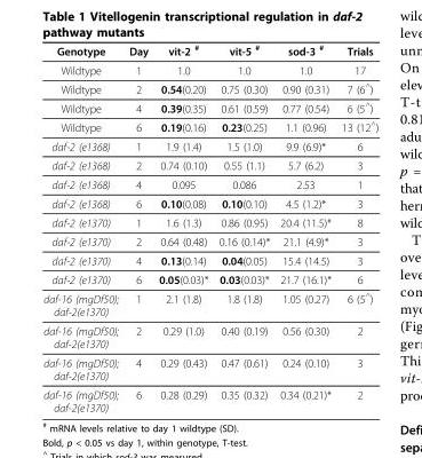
<table><thead><tr><td>Genotype</td><td>Day</td><td>vit-2 <sup>#</sup></td><td>vit-5 <sup>#</sup></td><td>sod-3 <sup>#</sup></td><td>Trials</td></tr></thead><tbody><tr><td>Wildtype</td><td>1</td><td>1.0</td><td>1.0</td><td>1.0</td><td>17</td></tr><tr><td>Wildtype</td><td>2</td><td>0.54(0.20)</td><td>0.75 (0.30)</td><td>0.90 (0.31)</td><td>7 (6<sup>^</sup>)</td></tr><tr><td>Wildtype</td><td>4</td><td>0.39(0.35)</td><td>0.61 (0.59)</td><td>0.77 (0.54)</td><td>6 (5<sup>^</sup>)</td></tr><tr><td>Wildtype</td><td>6</td><td>0.19(0.16)</td><td>0.23(0.25)</td><td>1.1 (0.96)</td><td>13 (12<sup>^</sup>)</td></tr><tr><td>daf-2 (e1368)</td><td>1</td><td>1.9 (1.4)</td><td>1.5 (1.0)</td><td>9.9 (6.9)*</td><td>6</td></tr><tr><td>daf-2 (e1368)</td><td>2</td><td>0.74 (0.10)</td><td>0.55 (1.1)</td><td>5.7 (6.2)</td><td>3</td></tr><tr><td>daf-2 (e1368)</td><td>4</td><td>0.095</td><td>0.086</td><td>2.53</td><td>1</td></tr><tr><td>daf-2 (e1368)</td><td>6</td><td>0.10(0.08)</td><td>0.10(0.10)</td><td>4.5 (1.2)*</td><td>3</td></tr><tr><td>daf-2 (e1370)</td><td>1</td><td>1.6 (1.3)</td><td>0.86 (0.95)</td><td>20.4 (11.5)*</td><td>8</td></tr><tr><td>daf-2 (e1370)</td><td>2</td><td>0.64 (0.48)</td><td>0.16 (0.14)*</td><td>21.1 (4.9)*</td><td>3</td></tr><tr><td>daf-2 (e1370)</td><td>4</td><td>0.13(0.14)</td><td>0.04(0.05)</td><td>15.4 (14.5)</td><td>3</td></tr><tr><td>daf-2 (e1370)</td><td>6</td><td>0.05(0.03)*</td><td>0.03(0.03)*</td><td>21.7 (16.1)*</td><td>6</td></tr><tr><td>daf-16 (mgDf50); daf-2(e1370)</td><td>1</td><td>2.1 (1.8)</td><td>1.8 (1.8)</td><td>1.05 (0.27)</td><td>6 (5<sup>^</sup>)</td></tr><tr><td>daf-16 (mgDf50); daf-2(e1370)</td><td>2</td><td>0.29 (1.0)</td><td>0.40 (0.19)</td><td>0.56 (0.30)</td><td>2</td></tr><tr><td>daf-16 (mgDf50); daf-2(e1370)</td><td>4</td><td>0.29 (0.43)</td><td>0.47 (0.61)</td><td>0.24 (0.10)</td><td>3</td></tr><tr><td>daf-16 (mgDf50); daf-2(e1370)</td><td>6</td><td>0.28 (0.29)</td><td>0.35 (0.32)</td><td>0.34 (0.21)*</td><td>2</td></tr></tbody></table>